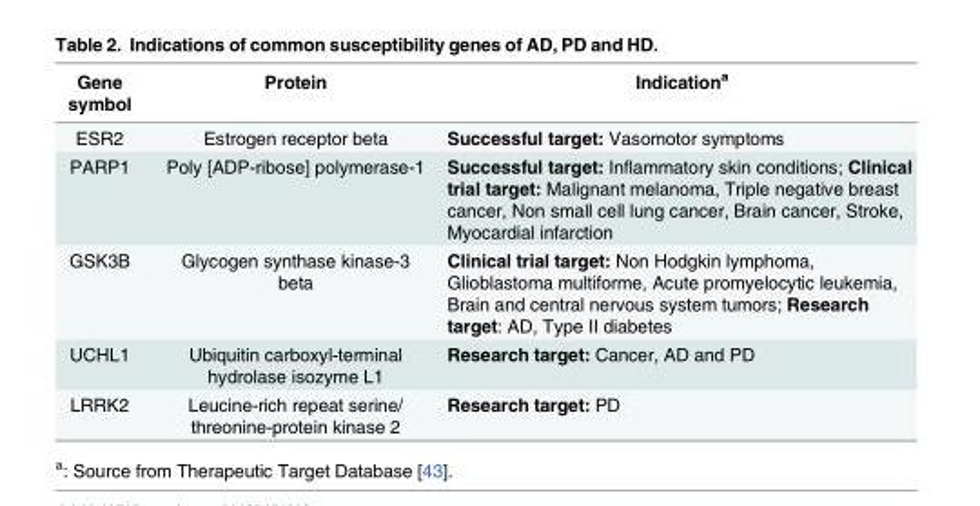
<table><thead><tr><td>Gene symbol</td><td>Protein</td><td>Indication<sup>a</sup></td></tr></thead><tbody><tr><td>ESR2</td><td>Estrogen receptor beta</td><td>Successful target: Vasomotor symptoms</td></tr><tr><td>PARP1</td><td>Poly [ADP-ribose] polymerase-1</td><td>Successful target: Inflammatory skin conditions; Clinical trial target: Malignant melanoma, Triple negative breast cancer, Non small cell lung cancer, Brain cancer, Stroke, Myocardial infarction</td></tr><tr><td>GSK3B</td><td>Glycogen synthase kinase-3 beta</td><td>Clinical trial target: Non Hodgkin lymphoma, Glioblastoma multiforme, Acute promyelocytic leukemia, Brain and central nervous system tumors; Research target: AD, Type II diabetes</td></tr><tr><td>UCHL1</td><td>Ubiquitin carboxyl-terminal hydrolase isozyme L1</td><td>Research target: Cancer, AD and PD</td></tr><tr><td>LRRK2</td><td>Leucine-rich repeat serine/ threonine-protein kinase 2</td><td>Research target: PD</td></tr></tbody></table>